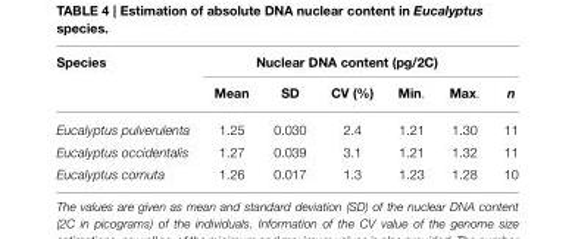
<table><thead><tr><td rowspan="2">Species</td><td colspan="6">Nuclear DNA content (pg/2C)</td></tr><tr><td>Mean</td><td>SD</td><td>CV (%)</td><td>Min.</td><td>Max.</td><td>n</td></tr></thead><tbody><tr><td>Eucalyptus pulverulenta</td><td>1.25</td><td>0.030</td><td>2.4</td><td>1.21</td><td>1.30</td><td>11</td></tr><tr><td>Eucalyptus occidentalis</td><td>1.27</td><td>0.039</td><td>3.1</td><td>1.21</td><td>1.32</td><td>11</td></tr><tr><td>Eucalyptus cornuta</td><td>1.26</td><td>0.017</td><td>1.3</td><td>1.23</td><td>1.28</td><td>10</td></tr></tbody></table>